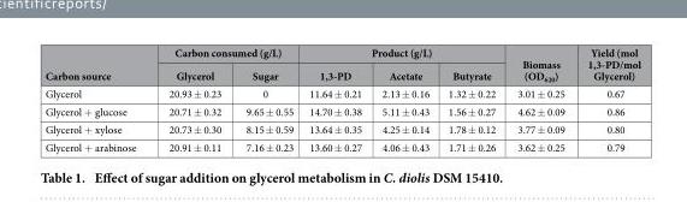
<table><thead><tr><td rowspan="2">Carbon source</td><td colspan="2">Carbon consumed (g/L)</td><td colspan="3">Product (g/L)</td><td rowspan="2">Biomass (OD<sub>620</sub>)</td><td rowspan="2">Yield (mol 1,3-PD/mol Glycerol)</td></tr><tr><td>Glycerol</td><td>Sugar</td><td>1,3-PD</td><td>Acetate</td><td>Butyrate</td></tr></thead><tbody><tr><td>Glycerol</td><td>20.93 ± 0.23</td><td>0</td><td>11.64 ± 0.21</td><td>2.13 ± 0.16</td><td>1.32 ± 0.22</td><td>3.01 ± 0.25</td><td>0.67</td></tr><tr><td>Glycerol + glucose</td><td>20.71 ± 0.32</td><td>9.65 ± 0.55</td><td>14.70 ± 0.38</td><td>5.11 ± 0.43</td><td>1.56 ± 0.27</td><td>4.62 ± 0.09</td><td>0.86</td></tr><tr><td>Glycerol + xylose</td><td>20.73 ± 0.30</td><td>8.15 ± 0.59</td><td>13.64 ± 0.35</td><td>4.25 ± 0.14</td><td>1.78 ± 0.12</td><td>3.77 ± 0.09</td><td>0.80</td></tr><tr><td>Glycerol + arabinose</td><td>20.91 ± 0.11</td><td>7.16 ± 0.23</td><td>13.60 ± 0.27</td><td>4.06 ± 0.43</td><td>1.71 ± 0.26</td><td>3.62 ± 0.25</td><td>0.79</td></tr></tbody></table>